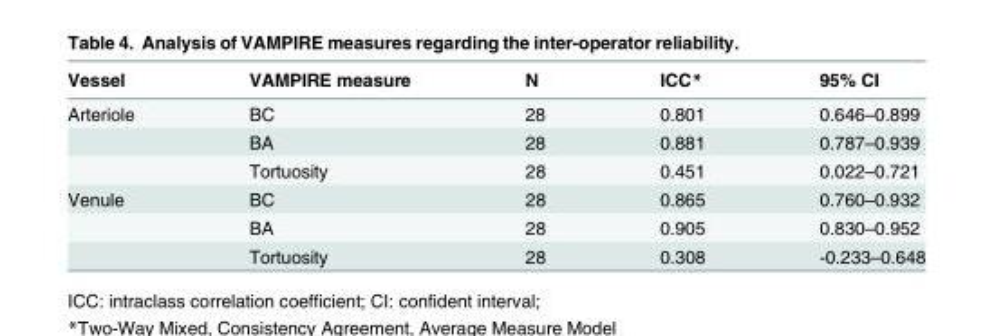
<table><thead><tr><td>Vessel</td><td>VAMPIRE measure</td><td>N</td><td>ICC*</td><td>95% CI</td></tr></thead><tbody><tr><td rowspan="3">Arteriole</td><td>BC</td><td>28</td><td>0.801</td><td>0.646–0.899</td></tr><tr><td>BA</td><td>28</td><td>0.881</td><td>0.787–0.939</td></tr><tr><td>Tortuosity</td><td>28</td><td>0.451</td><td>0.022–0.721</td></tr><tr><td rowspan="3">Venule</td><td>BC</td><td>28</td><td>0.865</td><td>0.760–0.932</td></tr><tr><td>BA</td><td>28</td><td>0.905</td><td>0.830–0.952</td></tr><tr><td>Tortuosity</td><td>28</td><td>0.308</td><td>-0.233–0.648</td></tr></tbody></table>